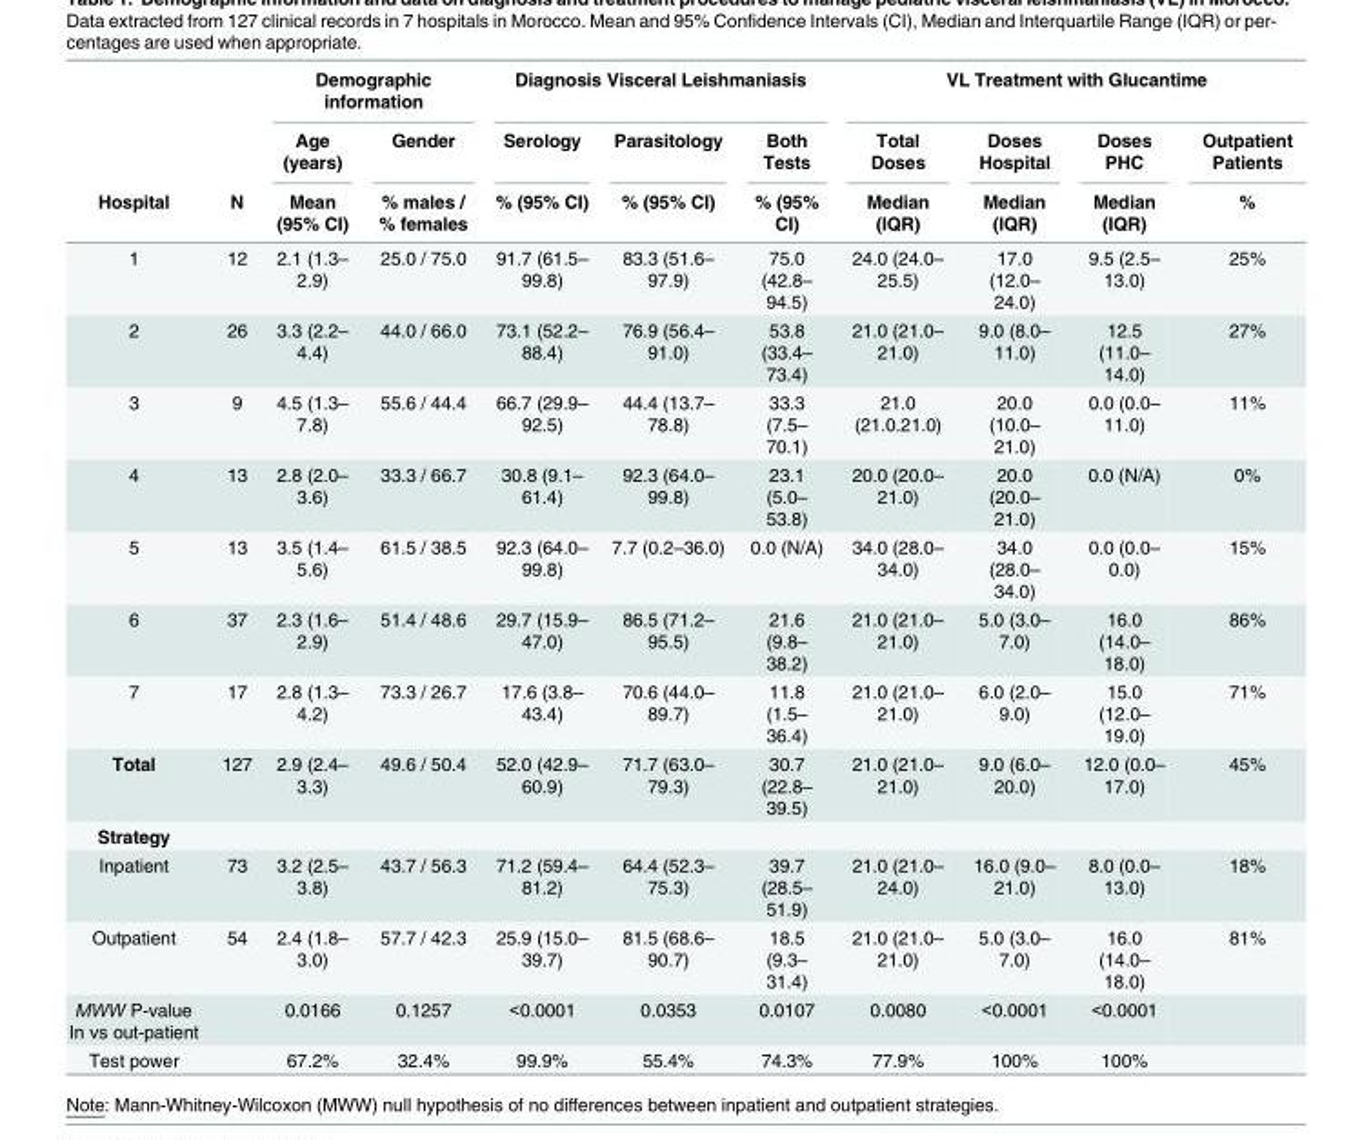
<table><thead><tr><td rowspan="3">Hospital</td><td rowspan="3">N</td><td colspan="2">Demographic information</td><td colspan="3">Diagnosis Visceral Leishmaniasis</td><td colspan="4">VL Treatment with Glucantime</td></tr><tr><td rowspan="2">Age (years) Mean (95% CI)</td><td rowspan="2">Gender % males / % females</td><td rowspan="2">Serology % (95% CI)</td><td rowspan="2">Parasitology % (95% CI)</td><td rowspan="2">Both Tests % (95% CI)</td><td rowspan="2">Total Doses Median (IQR)</td><td rowspan="2">Doses Hospital Median (IQR)</td><td rowspan="2">Doses PHC Median (IQR)</td><td rowspan="2">Outpatient Patients %</td></tr><tr></tr></thead><tbody><tr><td>1</td><td>12</td><td>2.1 (1.3– 2.9)</td><td>25.0 / 75.0</td><td>91.7 (61.5– 99.8)</td><td>83.3 (51.6– 97.9)</td><td>75.0 (42.8– 94.5)</td><td>24.0 (24.0– 25.5)</td><td>17.0 (12.0– 24.0)</td><td>9.5 (2.5– 13.0)</td><td>25%</td></tr><tr><td>2</td><td>26</td><td>3.3 (2.2– 4.4)</td><td>44.0 / 66.0</td><td>73.1 (52.2– 88.4)</td><td>76.9 (56.4– 91.0)</td><td>53.8 (33.4– 73.4)</td><td>21.0 (21.0– 21.0)</td><td>9.0 (8.0– 11.0)</td><td>12.5 (11.0– 14.0)</td><td>27%</td></tr><tr><td>3</td><td>9</td><td>4.5 (1.3– 7.8)</td><td>55.6 / 44.4</td><td>66.7 (29.9– 92.5)</td><td>44.4 (13.7– 78.8)</td><td>33.3 (7.5– 70.1)</td><td>21.0 (21.0.21.0)</td><td>20.0 (10.0– 21.0)</td><td>0.0 (0.0– 11.0)</td><td>11%</td></tr><tr><td>4</td><td>13</td><td>2.8 (2.0– 3.6)</td><td>33.3 / 66.7</td><td>30.8 (9.1– 61.4)</td><td>92.3 (64.0– 99.8)</td><td>23.1 (5.0– 53.8)</td><td>20.0 (20.0– 21.0)</td><td>20.0 (20.0– 21.0)</td><td>0.0 (N/A)</td><td>0%</td></tr><tr><td>5</td><td>13</td><td>3.5 (1.4– 5.6)</td><td>61.5 / 38.5</td><td>92.3 (64.0– 99.8)</td><td>7.7 (0.2–36.0)</td><td>0.0 (N/A)</td><td>34.0 (28.0– 34.0)</td><td>34.0 (28.0– 34.0)</td><td>0.0 (0.0– 0.0)</td><td>15%</td></tr><tr><td>6</td><td>37</td><td>2.3 (1.6– 2.9)</td><td>51.4 / 48.6</td><td>29.7 (15.9– 47.0)</td><td>86.5 (71.2– 95.5)</td><td>21.6 (9.8– 38.2)</td><td>21.0 (21.0– 21.0)</td><td>5.0 (3.0– 7.0)</td><td>16.0 (14.0– 18.0)</td><td>86%</td></tr><tr><td>7</td><td>17</td><td>2.8 (1.3– 4.2)</td><td>73.3 / 26.7</td><td>17.6 (3.8– 43.4)</td><td>70.6 (44.0– 89.7)</td><td>11.8 (1.5– 36.4)</td><td>21.0 (21.0– 21.0)</td><td>6.0 (2.0– 9.0)</td><td>15.0 (12.0– 19.0)</td><td>71%</td></tr><tr><td>Total</td><td>127</td><td>2.9 (2.4– 3.3)</td><td>49.6 / 50.4</td><td>52.0 (42.9– 60.9)</td><td>71.7 (63.0– 79.3)</td><td>30.7 (22.8– 39.5)</td><td>21.0 (21.0– 21.0)</td><td>9.0 (6.0– 20.0)</td><td>12.0 (0.0– 17.0)</td><td>45%</td></tr><tr><td colspan="11">Strategy</td></tr><tr><td>Inpatient</td><td>73</td><td>3.2 (2.5– 3.8)</td><td>43.7 / 56.3</td><td>71.2 (59.4– 81.2)</td><td>64.4 (52.3– 75.3)</td><td>39.7 (28.5– 51.9)</td><td>21.0 (21.0– 24.0)</td><td>16.0 (9.0– 21.0)</td><td>8.0 (0.0– 13.0)</td><td>18%</td></tr><tr><td>Outpatient</td><td>54</td><td>2.4 (1.8– 3.0)</td><td>57.7 / 42.3</td><td>25.9 (15.0– 39.7)</td><td>81.5 (68.6– 90.7)</td><td>18.5 (9.3– 31.4)</td><td>21.0 (21.0– 21.0)</td><td>5.0 (3.0– 7.0)</td><td>16.0 (14.0– 18.0)</td><td>81%</td></tr><tr><td>MWW P-value In vs out-patient</td><td></td><td>0.0166</td><td>0.1257</td><td>&lt;0.0001</td><td>0.0353</td><td>0.0107</td><td>0.0080</td><td>&lt;0.0001</td><td>&lt;0.0001</td><td></td></tr><tr><td>Test power</td><td></td><td>67.2%</td><td>32.4%</td><td>99.9%</td><td>55.4%</td><td>74.3%</td><td>77.9%</td><td>100%</td><td>100%</td><td></td></tr></tbody></table>